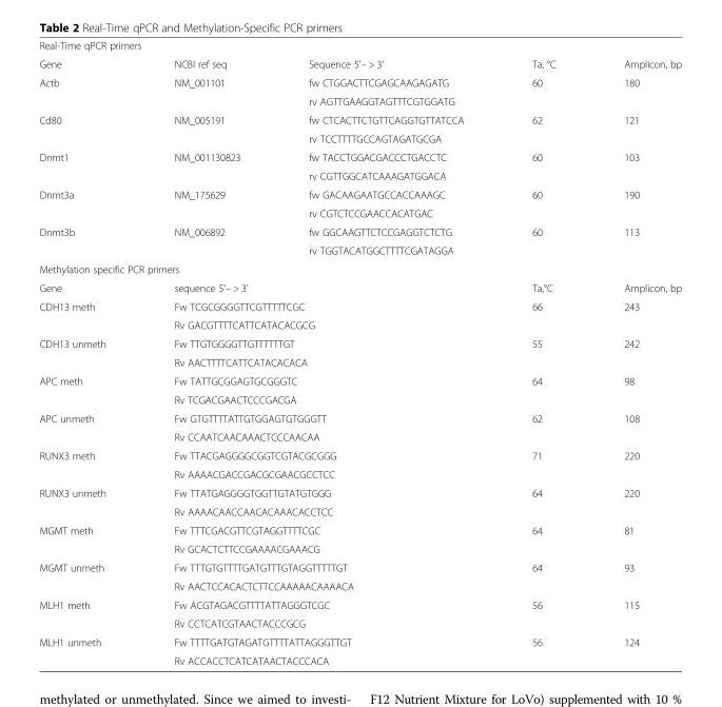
<table><tbody><tr><td colspan="5">Real-Time qPCR primers</td></tr><tr><td>Gene</td><td>NCBI ref seq</td><td>Sequence 5&#x27;– &gt; 3&#x27;</td><td>Ta, °C</td><td>Amplicon, bp</td></tr><tr><td rowspan="2">Actb</td><td>NM_001101</td><td>fw CTGGACTTCGAGCAAGAGATG</td><td>60</td><td>180</td></tr><tr><td></td><td>rv AGTTGAAGGTAGTTTCGTGGATG</td><td></td><td></td></tr><tr><td rowspan="2">Cd80</td><td>NM_005191</td><td>fw CTCACTTCTGTTCAGGTGTTATCCA</td><td>62</td><td>121</td></tr><tr><td></td><td>rv TCCTTTTGCCAGTAGATGCGA</td><td></td><td></td></tr><tr><td rowspan="2">Dnmt1</td><td>NM_001130823</td><td>fw TACCTGGACGACCCTGACCTC</td><td>60</td><td>103</td></tr><tr><td></td><td>rv CGTTGGCATCAAAGATGGACA</td><td></td><td></td></tr><tr><td rowspan="2">Dnmt3a</td><td>NM_175629</td><td>fw GACAAGAATGCCACCAAAGC</td><td>60</td><td>190</td></tr><tr><td></td><td>rv CGTCTCCGAACCACATGAC</td><td></td><td></td></tr><tr><td rowspan="2">Dnmt3b</td><td>NM_006892</td><td>fw GGCAAGTTCTCCGAGGTCTCTG</td><td>60</td><td>113</td></tr><tr><td></td><td>rv TGGTACATGGCTTTTCGATAGGA</td><td></td><td></td></tr><tr><td colspan="5">Methylation specific PCR primers</td></tr><tr><td>Gene</td><td colspan="2">sequence 5&#x27;– &gt; 3&#x27;</td><td>Ta,°C</td><td>Amplicon, bp</td></tr><tr><td rowspan="2">CDH13 meth</td><td colspan="2">Fw TCGCGGGGTTCGTTTTTCGC</td><td>66</td><td>243</td></tr><tr><td colspan="2">Rv GACGTTTTCATTCATACACGCG</td><td></td><td></td></tr><tr><td rowspan="2">CDH13 unmeth</td><td colspan="2">Fw TTGTGGGGTTGTTTTTTGT</td><td>55</td><td>242</td></tr><tr><td colspan="2">Rv AACTTTTCATTCATACACACA</td><td></td><td></td></tr><tr><td rowspan="2">APC meth</td><td colspan="2">Fw TATTGCGGAGTGCGGGTC</td><td>64</td><td>98</td></tr><tr><td colspan="2">Rv TCGACGAACTCCCGACGA</td><td></td><td></td></tr><tr><td rowspan="2">APC unmeth</td><td colspan="2">Fw GTGTTTTATTGTGGAGTGTGGGTT</td><td>62</td><td>108</td></tr><tr><td colspan="2">Rv CCAATCAACAAACTCCCAACAA</td><td></td><td></td></tr><tr><td rowspan="2">RUNX3 meth</td><td colspan="2">Fw TTACGAGGGGCGGTCGTACGCGGG</td><td>71</td><td>220</td></tr><tr><td colspan="2">Rv AAAACGACCGACGCGAACGCCTCC</td><td></td><td></td></tr><tr><td rowspan="2">RUNX3 unmeth</td><td colspan="2">Fw TTATGAGGGGTGGTTGTATGTGGG</td><td>64</td><td>220</td></tr><tr><td colspan="2">Rv AAAACAACCAACACAAACACCTCC</td><td></td><td></td></tr><tr><td rowspan="2">MGMT meth</td><td colspan="2">Fw TTTCGACGTTCGTAGGTTTTCGC</td><td>64</td><td>81</td></tr><tr><td colspan="2">Rv GCACTCTTCCGAAAACGAAACG</td><td></td><td></td></tr><tr><td rowspan="2">MGMT unmeth</td><td colspan="2">Fw TTTGTGTTTTGATGTTTGTAGGTTTTTGT</td><td>64</td><td>93</td></tr><tr><td colspan="2">Rv AACTCCACACTCTTCCAAAAACAAAACA</td><td></td><td></td></tr><tr><td rowspan="2">MLH1 meth</td><td colspan="2">Fw ACGTAGACGTTTTATTAGGGTCGC</td><td>56</td><td>115</td></tr><tr><td colspan="2">Rv CCTCATCGTAACTACCCGCG</td><td></td><td></td></tr><tr><td rowspan="2">MLH1 unmeth</td><td colspan="2">Fw TTTTGATGTAGATGTTTTATTAGGGTTGT</td><td>56</td><td>124</td></tr><tr><td colspan="2">Rv ACCACCTCATCATAACTACCCACA</td><td></td><td></td></tr></tbody></table>